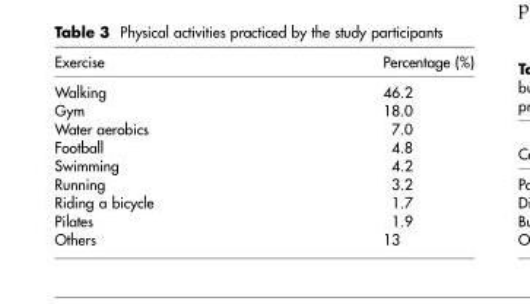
<table><thead><tr><td>Exercise</td><td>Percentage (%)</td></tr></thead><tbody><tr><td>Walking</td><td>46.2</td></tr><tr><td>Gym</td><td>18.0</td></tr><tr><td>Water aerobics</td><td>7.0</td></tr><tr><td>Football</td><td>4.8</td></tr><tr><td>Swimming</td><td>4.2</td></tr><tr><td>Running</td><td>3.2</td></tr><tr><td>Riding a bicycle</td><td>1.7</td></tr><tr><td>Pilates</td><td>1.9</td></tr><tr><td>Others</td><td>13</td></tr></tbody></table>